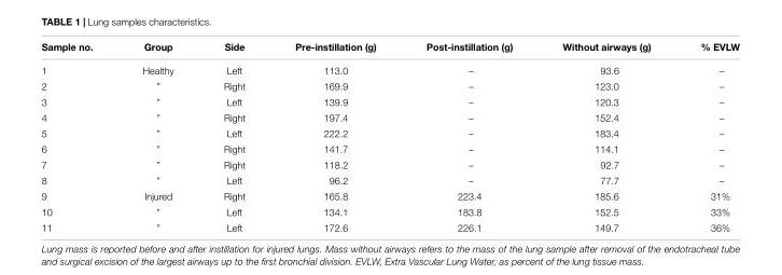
<table><thead><tr><td>Sample no.</td><td>Group</td><td>Side</td><td>Pre-instillation (g)</td><td>Post-instillation (g)</td><td>Without airways (g)</td><td>% EVLW</td></tr></thead><tbody><tr><td>1</td><td>Healthy</td><td>Left</td><td>113.0</td><td>–</td><td>93.6</td><td>–</td></tr><tr><td>2</td><td>”</td><td>Right</td><td>169.9</td><td>–</td><td>123.0</td><td>–</td></tr><tr><td>3</td><td>”</td><td>Left</td><td>139.9</td><td>–</td><td>120.3</td><td>–</td></tr><tr><td>4</td><td>”</td><td>Right</td><td>197.4</td><td>–</td><td>152.4</td><td>–</td></tr><tr><td>5</td><td>”</td><td>Left</td><td>222.2</td><td>–</td><td>183.4</td><td>–</td></tr><tr><td>6</td><td>”</td><td>Right</td><td>141.7</td><td>–</td><td>114.1</td><td>–</td></tr><tr><td>7</td><td>”</td><td>Right</td><td>118.2</td><td>–</td><td>92.7</td><td>–</td></tr><tr><td>8</td><td>”</td><td>Left</td><td>96.2</td><td>–</td><td>77.7</td><td>–</td></tr><tr><td>9</td><td>Injured</td><td>Right</td><td>165.8</td><td>223.4</td><td>185.6</td><td>31%</td></tr><tr><td>10</td><td>”</td><td>Left</td><td>134.1</td><td>183.8</td><td>152.5</td><td>33%</td></tr><tr><td>11</td><td>”</td><td>Left</td><td>172.6</td><td>226.1</td><td>149.7</td><td>36%</td></tr></tbody></table>